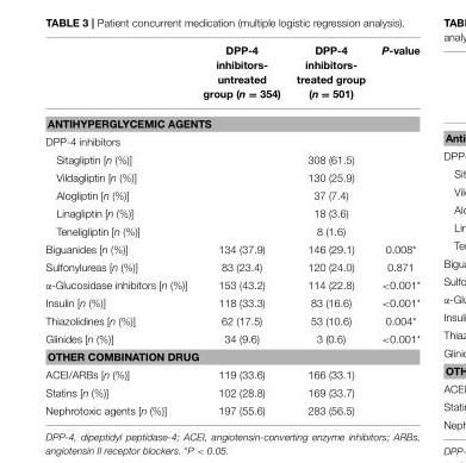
<table><thead><tr><td></td><td>DPP-4 inhibitors- untreated group (n = 354)</td><td>DPP-4 inhibitors- treated group (n = 501)</td><td>P-value</td></tr></thead><tbody><tr><td colspan="4">ANTIHYPERGLYCEMIC AGENTS</td></tr><tr><td colspan="4">DPP-4 inhibitors</td></tr><tr><td>Sitagliptin [n (%)]</td><td></td><td>308 (61.5)</td><td></td></tr><tr><td>Vildagliptin [n (%)]</td><td></td><td>130 (25.9)</td><td></td></tr><tr><td>Alogliptin [n (%)]</td><td></td><td>37 (7.4)</td><td></td></tr><tr><td>Linagliptin [n (%)]</td><td></td><td>18 (3.6)</td><td></td></tr><tr><td>Teneligliptin [n (%)]</td><td></td><td>8 (1.6)</td><td></td></tr><tr><td>Biguanides [n (%)]</td><td>134 (37.9)</td><td>146 (29.1)</td><td>0.008*</td></tr><tr><td>Sulfonylureas [n (%)]</td><td>83 (23.4)</td><td>120 (24.0)</td><td>0.871</td></tr><tr><td>α-Glucosidase inhibitors [n (%)]</td><td>153 (43.2)</td><td>114 (22.8)</td><td>&lt;0.001*</td></tr><tr><td>Insulin [n (%)]</td><td>118 (33.3)</td><td>83 (16.6)</td><td>&lt;0.001*</td></tr><tr><td>Thiazolidines [n (%)]</td><td>62 (17.5)</td><td>53 (10.6)</td><td>0.004*</td></tr><tr><td>Glinides [n (%)]</td><td>34 (9.6)</td><td>3 (0.6)</td><td>&lt;0.001*</td></tr><tr><td colspan="4">OTHER COMBINATION DRUG</td></tr><tr><td>ACEI/ARBs [n (%)]</td><td>119 (33.6)</td><td>166 (33.1)</td><td></td></tr><tr><td>Statins [n (%)]</td><td>102 (28.8)</td><td>169 (33.7)</td><td></td></tr><tr><td>Nephrotoxic agents [n (%)]</td><td>197 (55.6)</td><td>283 (56.5)</td><td></td></tr></tbody></table>